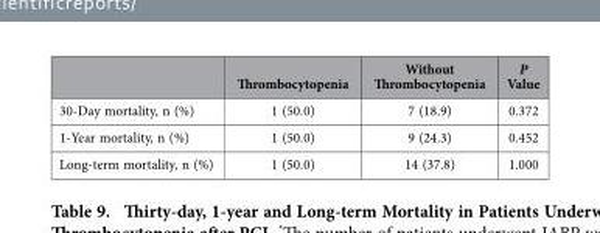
<table><thead><tr><td></td><td>Thrombocytopenia</td><td>Without Thrombocytopenia</td><td>P Value</td></tr></thead><tbody><tr><td>30-Day mortality, n (%)</td><td>1 (50.0)</td><td>7 (18.9)</td><td>0.372</td></tr><tr><td>1-Year mortality, n (%)</td><td>1 (50.0)</td><td>9 (24.3)</td><td>0.452</td></tr><tr><td>Long-term mortality, n (%)</td><td>1 (50.0)</td><td>14 (37.8)</td><td>1.000</td></tr></tbody></table>